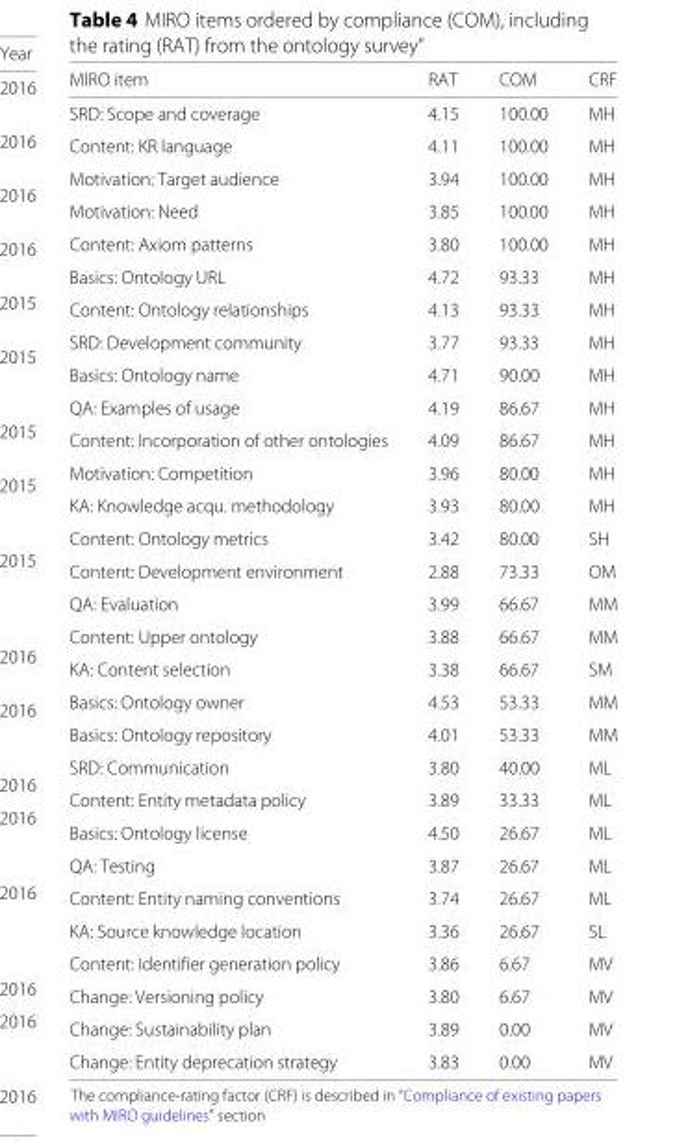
<table><thead><tr><td>MIRO item</td><td>RAT</td><td>COM</td><td>CRF</td></tr></thead><tbody><tr><td>SRD: Scope and coverage</td><td>4.15</td><td>100.00</td><td>MH</td></tr><tr><td>Content: KR language</td><td>4.11</td><td>100.00</td><td>MH</td></tr><tr><td>Motivation: Target audience</td><td>3.94</td><td>100.00</td><td>MH</td></tr><tr><td>Motivation: Need</td><td>3.85</td><td>100.00</td><td>MH</td></tr><tr><td>Content: Axiom patterns</td><td>3.80</td><td>100.00</td><td>MH</td></tr><tr><td>Basics: Ontology URL</td><td>4.72</td><td>93.33</td><td>MH</td></tr><tr><td>Content: Ontology relationships</td><td>4.13</td><td>93.33</td><td>MH</td></tr><tr><td>SRD: Development community</td><td>3.77</td><td>93.33</td><td>MH</td></tr><tr><td>Basics: Ontology name</td><td>4.71</td><td>90.00</td><td>MH</td></tr><tr><td>QA: Examples of usage</td><td>4.19</td><td>86.67</td><td>MH</td></tr><tr><td>Content: Incorporation of other ontologies</td><td>4.09</td><td>86.67</td><td>MH</td></tr><tr><td>Motivation: Competition</td><td>3.96</td><td>80.00</td><td>MH</td></tr><tr><td>KA: Knowledge acqu. methodology</td><td>3.93</td><td>80.00</td><td>MH</td></tr><tr><td>Content: Ontology metrics</td><td>3.42</td><td>80.00</td><td>SH</td></tr><tr><td>Content: Development environment</td><td>2.88</td><td>73.33</td><td>OM</td></tr><tr><td>QA: Evaluation</td><td>3.99</td><td>66.67</td><td>MM</td></tr><tr><td>Content: Upper ontology</td><td>3.88</td><td>66.67</td><td>MM</td></tr><tr><td>KA: Content selection</td><td>3.38</td><td>66.67</td><td>SM</td></tr><tr><td>Basics: Ontology owner</td><td>4.53</td><td>53.33</td><td>MM</td></tr><tr><td>Basics: Ontology repository</td><td>4.01</td><td>53.33</td><td>MM</td></tr><tr><td>SRD: Communication</td><td>3.80</td><td>40.00</td><td>ML</td></tr><tr><td>Content: Entity metadata policy</td><td>3.89</td><td>33.33</td><td>ML</td></tr><tr><td>Basics: Ontology license</td><td>4.50</td><td>26.67</td><td>ML</td></tr><tr><td>QA: Testing</td><td>3.87</td><td>26.67</td><td>ML</td></tr><tr><td>Content: Entity naming conventions</td><td>3.74</td><td>26.67</td><td>ML</td></tr><tr><td>KA: Source knowledge location</td><td>3.36</td><td>26.67</td><td>SL</td></tr><tr><td>Content: Identifier generation policy</td><td>3.86</td><td>6.67</td><td>MV</td></tr><tr><td>Change: Versioning policy</td><td>3.80</td><td>6.67</td><td>MV</td></tr><tr><td>Change: Sustainability plan</td><td>3.89</td><td>0.00</td><td>MV</td></tr><tr><td>Change: Entity deprecation strategy</td><td>3.83</td><td>0.00</td><td>MV</td></tr></tbody></table>